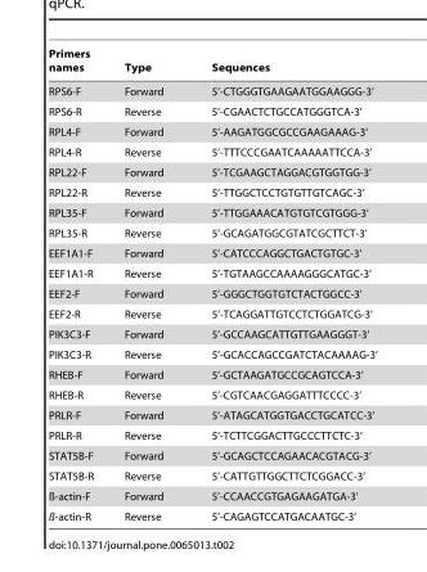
<table><thead><tr><td>Primers names</td><td>Type</td><td>Sequences</td></tr></thead><tbody><tr><td>RPS6-F</td><td>Forward</td><td>5’-CTGGGTGAAGAATGGAAGGG-3’</td></tr><tr><td>RPS6-R</td><td>Reverse</td><td>5’-CGAACTCTGCCATGGGTCA-3’</td></tr><tr><td>RPL4-F</td><td>Forward</td><td>5’-AAGATGGCGCCGAAGAAAG-3’</td></tr><tr><td>RPL4-R</td><td>Reverse</td><td>5’-TTTCCCGAATCAAAAATTCCA-3’</td></tr><tr><td>RPL22-F</td><td>Forward</td><td>5’-TCGAAGCTAGGACGTGGTGG-3’</td></tr><tr><td>RPL22-R</td><td>Reverse</td><td>5’-TTGGCTCCTGTGTTGTCAGC-3’</td></tr><tr><td>RPL35-F</td><td>Forward</td><td>5’-TTGGAAACATGTGTCGTGGG-3’</td></tr><tr><td>RPL35-R</td><td>Reverse</td><td>5’-GCAGATGGCGTATCGCTTCT-3’</td></tr><tr><td>EEF1A1-F</td><td>Forward</td><td>5’-CATCCCAGGCTGACTGTGC-3’</td></tr><tr><td>EEF1A1-R</td><td>Reverse</td><td>5’-TGTAAGCCAAAAGGGCATGC-3’</td></tr><tr><td>EEF2-F</td><td>Forward</td><td>5’-GGGCTGGTGTCTACTGGCC-3’</td></tr><tr><td>EEF2-R</td><td>Reverse</td><td>5’-TCAGGATTGTCCTCTGGATCG-3’</td></tr><tr><td>PIK3C3-F</td><td>Forward</td><td>5’-GCCAAGCATTGTTGAAGGGT-3’</td></tr><tr><td>PIK3C3-R</td><td>Reverse</td><td>5’-GCACCAGCCGATCTACAAAAG-3’</td></tr><tr><td>RHEB-F</td><td>Forward</td><td>5’-GCTAAGATGCCGCAGTCCA-3’</td></tr><tr><td>RHEB-R</td><td>Reverse</td><td>5’-CGTCAACGAGGATTTCCCC-3’</td></tr><tr><td>PRLR-F</td><td>Forward</td><td>5’-ATAGCATGGTGACCTGCATCC-3’</td></tr><tr><td>PRLR-R</td><td>Reverse</td><td>5’-TCTTCGGACTTGCCCTTCTC-3’</td></tr><tr><td>STAT5B-F</td><td>Forward</td><td>5’-GCAGCTCCAGAACACGTACG-3’</td></tr><tr><td>STAT5B-R</td><td>Reverse</td><td>5’-CATTGTTGGCTTCTCGGACC-3’</td></tr><tr><td>ß-actin-F</td><td>Forward</td><td>5’-CCAACCGTGAGAAGATGA-3’</td></tr><tr><td>ß-actin-R</td><td>Reverse</td><td>5’-CAGAGTCCATGACAATGC-3’</td></tr></tbody></table>